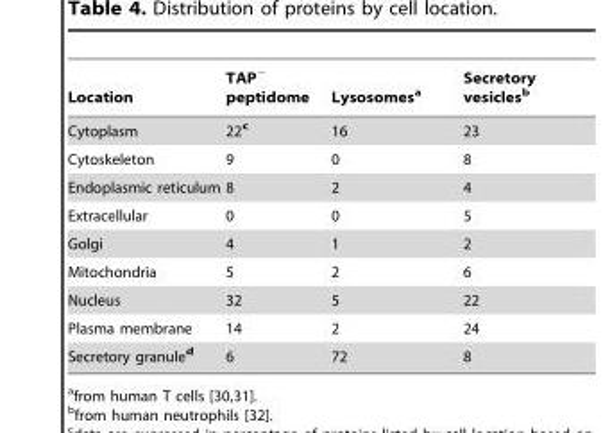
<table><thead><tr><td>Location</td><td>TAP<sup>−</sup> peptidome</td><td>Lysosomes<sup>a</sup></td><td>Secretory vesicles<sup>b</sup></td></tr></thead><tbody><tr><td>Cytoplasm</td><td>22<sup>c</sup></td><td>16</td><td>23</td></tr><tr><td>Cytoskeleton</td><td>9</td><td>0</td><td>8</td></tr><tr><td>Endoplasmic reticulum</td><td>8</td><td>2</td><td>4</td></tr><tr><td>Extracellular</td><td>0</td><td>0</td><td>5</td></tr><tr><td>Golgi</td><td>4</td><td>1</td><td>2</td></tr><tr><td>Mitochondria</td><td>5</td><td>2</td><td>6</td></tr><tr><td>Nucleus</td><td>32</td><td>5</td><td>22</td></tr><tr><td>Plasma membrane</td><td>14</td><td>2</td><td>24</td></tr><tr><td>Secretory granule<sup>d</sup></td><td>6</td><td>72</td><td>8</td></tr></tbody></table>